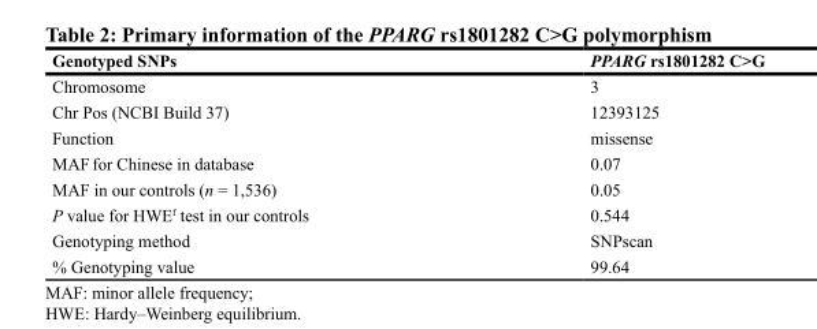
<table><thead><tr><td>Genotyped SNPs</td><td>PPARG rs1801282 C&gt;G</td></tr></thead><tbody><tr><td>Chromosome</td><td>3</td></tr><tr><td>Chr Pos (NCBI Build 37)</td><td>12393125</td></tr><tr><td>Function</td><td>missense</td></tr><tr><td>MAF for Chinese in database</td><td>0.07</td></tr><tr><td>MAF in our controls (n = 1,536)</td><td>0.05</td></tr><tr><td>P value for HWE<sup>f</sup> test in our controls</td><td>0.544</td></tr><tr><td>Genotyping method</td><td>SNPscan</td></tr><tr><td>% Genotyping value</td><td>99.64</td></tr></tbody></table>